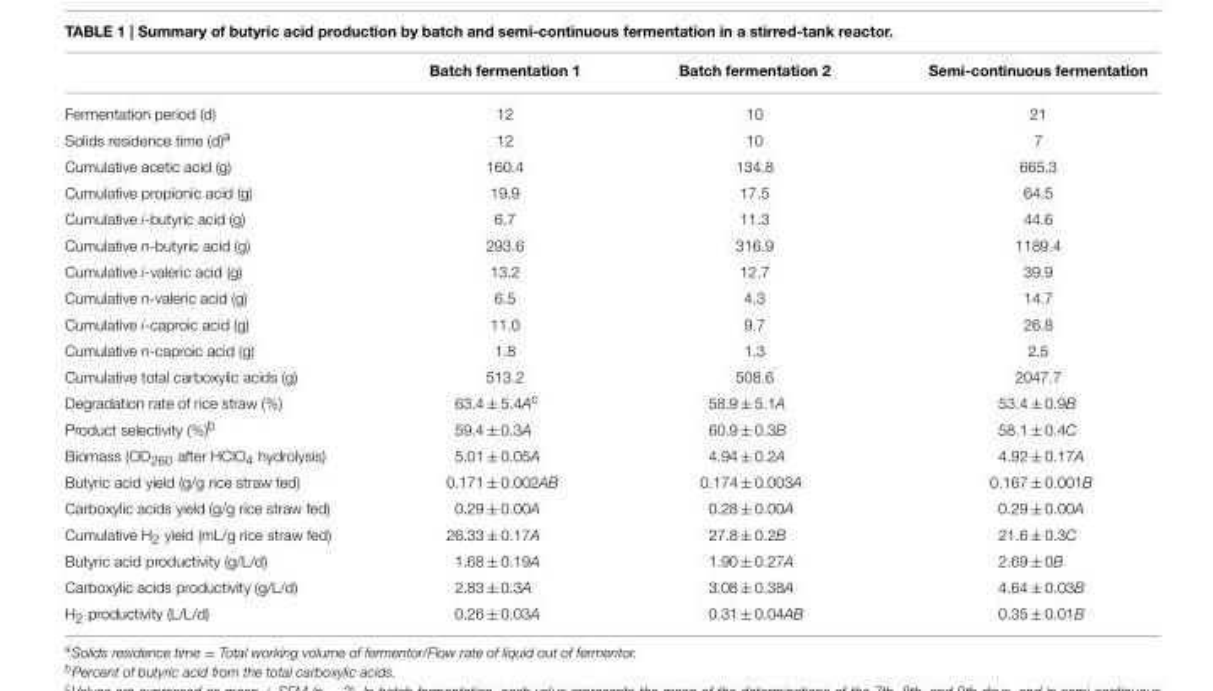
<table><thead><tr><td></td><td>Batch fermentation 1</td><td>Batch fermentation 2</td><td>Semi-continuous fermentation</td></tr></thead><tbody><tr><td>Fermentation period (d)</td><td>12</td><td>10</td><td>21</td></tr><tr><td>Solids residence time (d)<sup>a</sup></td><td>12</td><td>10</td><td>7</td></tr><tr><td>Cumulative acetic acid (g)</td><td>160.4</td><td>134.8</td><td>665.3</td></tr><tr><td>Cumulative propionic acid (g)</td><td>19.9</td><td>17.5</td><td>64.5</td></tr><tr><td>Cumulative i-butyric acid (g)</td><td>6.7</td><td>11.3</td><td>44.6</td></tr><tr><td>Cumulative n-butyric acid (g)</td><td>293.6</td><td>316.9</td><td>1189.4</td></tr><tr><td>Cumulative i-valeric acid (g)</td><td>13.2</td><td>12.7</td><td>39.9</td></tr><tr><td>Cumulative n-valeric acid (g)</td><td>6.5</td><td>4.3</td><td>14.7</td></tr><tr><td>Cumulative i-caproic acid (g)</td><td>11.0</td><td>9.7</td><td>26.8</td></tr><tr><td>Cumulative n-caproic acid (g)</td><td>1.8</td><td>1.3</td><td>2.5</td></tr><tr><td>Cumulative total carboxylic acids (g)</td><td>513.2</td><td>508.6</td><td>2047.7</td></tr><tr><td>Degradation rate of rice straw (%)</td><td>63.4 ± 5.4A<sup>c</sup></td><td>58.9 ± 5.1A</td><td>53.4 ± 0.9B</td></tr><tr><td>Product selectivity (%)<sup>b</sup></td><td>59.4 ± 0.3A</td><td>60.9 ± 0.3B</td><td>58.1 ± 0.4C</td></tr><tr><td>Biomass (OD<sub>260</sub> after HClO<sub>4</sub> hydrolysis)</td><td>5.01 ± 0.05A</td><td>4.94 ± 0.2A</td><td>4.92 ± 0.17A</td></tr><tr><td>Butyric acid yield (g/g rice straw fed)</td><td>0.171 ± 0.002AB</td><td>0.174 ± 0.003A</td><td>0.167 ± 0.001B</td></tr><tr><td>Carboxylic acids yield (g/g rice straw fed)</td><td>0.29 ± 0.00A</td><td>0.28 ± 0.00A</td><td>0.29 ± 0.00A</td></tr><tr><td>Cumulative H<sub>2</sub> yield (mL/g rice straw fed)</td><td>26.33 ± 0.17A</td><td>27.8 ± 0.2B</td><td>21.6 ± 0.3C</td></tr><tr><td>Butyric acid productivity (g/L/d)</td><td>1.68 ± 0.19A</td><td>1.90 ± 0.27A</td><td>2.69 ± 0B</td></tr><tr><td>Carboxylic acids productivity (g/L/d)</td><td>2.83 ± 0.3A</td><td>3.08 ± 0.38A</td><td>4.64 ± 0.03B</td></tr><tr><td>H<sub>2</sub> productivity (L/L/d)</td><td>0.26 ± 0.03A</td><td>0.31 ± 0.04AB</td><td>0.35 ± 0.01B</td></tr></tbody></table>